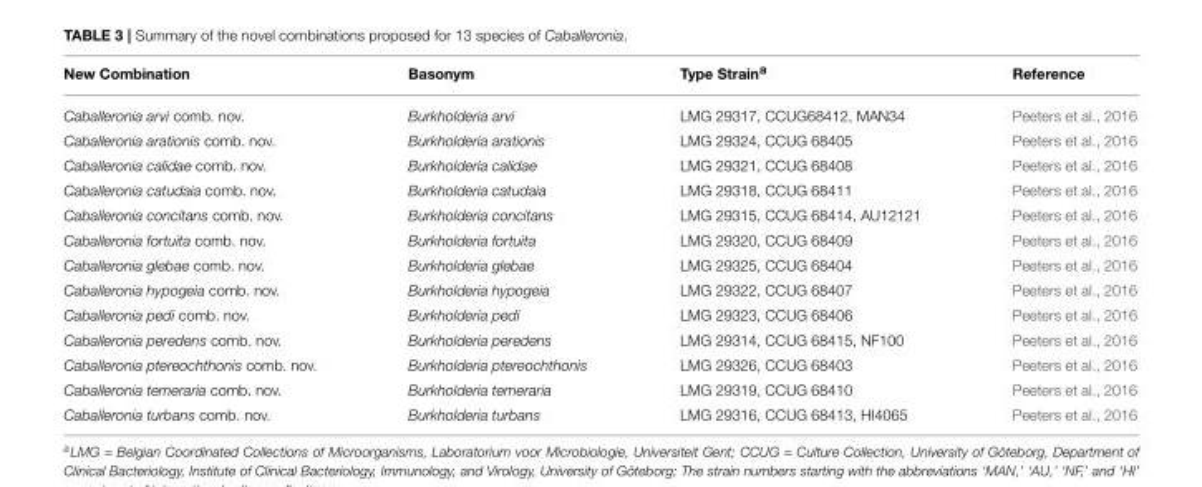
<table><thead><tr><td>New Combination</td><td>Basonym</td><td>Type Strain<sup>a</sup></td><td>Reference</td></tr></thead><tbody><tr><td>Caballeronia arvi comb. nov.</td><td>Burkholderia arvi</td><td>LMG 29317, CCUG68412, MAN34</td><td>Peeters et al., 2016</td></tr><tr><td>Caballeronia arationis comb. nov.</td><td>Burkholderia arationis</td><td>LMG 29324, CCUG 68405</td><td>Peeters et al., 2016</td></tr><tr><td>Caballeronia calidae comb. nov.</td><td>Burkholderia calidae</td><td>LMG 29321, CCUG 68408</td><td>Peeters et al., 2016</td></tr><tr><td>Caballeronia catudaia comb. nov.</td><td>Burkholderia catudaia</td><td>LMG 29318, CCUG 68411</td><td>Peeters et al., 2016</td></tr><tr><td>Caballeronia concitans comb. nov.</td><td>Burkholderia concitans</td><td>LMG 29315, CCUG 68414, AU12121</td><td>Peeters et al., 2016</td></tr><tr><td>Caballeronia fortuita comb. nov.</td><td>Burkholderia fortuita</td><td>LMG 29320, CCUG 68409</td><td>Peeters et al., 2016</td></tr><tr><td>Caballeronia glebae comb. nov.</td><td>Burkholderia glebae</td><td>LMG 29325, CCUG 68404</td><td>Peeters et al., 2016</td></tr><tr><td>Caballeronia hypogeia comb. nov.</td><td>Burkholderia hypogeia</td><td>LMG 29322, CCUG 68407</td><td>Peeters et al., 2016</td></tr><tr><td>Caballeronia pedi comb. nov.</td><td>Burkholderia pedi</td><td>LMG 29323, CCUG 68406</td><td>Peeters et al., 2016</td></tr><tr><td>Caballeronia peredens comb. nov.</td><td>Burkholderia peredens</td><td>LMG 29314, CCUG 68415, NF100</td><td>Peeters et al., 2016</td></tr><tr><td>Caballeronia ptereochthonis comb. nov.</td><td>Burkholderia ptereochthonis</td><td>LMG 29326, CCUG 68403</td><td>Peeters et al., 2016</td></tr><tr><td>Caballeronia temeraria comb. nov.</td><td>Burkholderia temeraria</td><td>LMG 29319, CCUG 68410</td><td>Peeters et al., 2016</td></tr><tr><td>Caballeronia turbans comb. nov.</td><td>Burkholderia turbans</td><td>LMG 29316, CCUG 68413, HI4065</td><td>Peeters et al., 2016</td></tr></tbody></table>